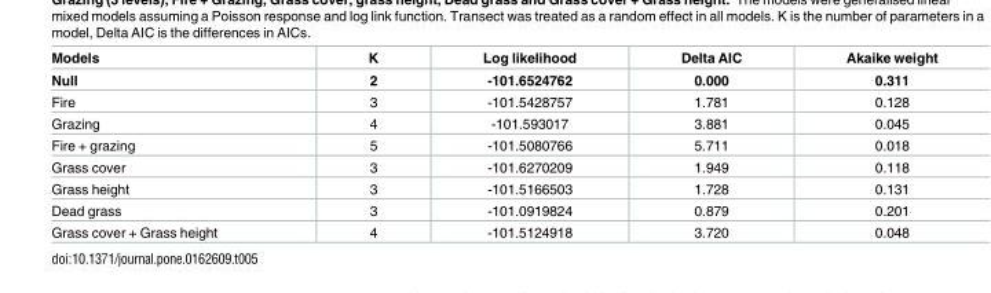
<table><thead><tr><td>Models</td><td>K</td><td>Log likelihood</td><td>Delta AIC</td><td>Akaike weight</td></tr></thead><tbody><tr><td>Null</td><td>2</td><td>-101.6524762</td><td>0.000</td><td>0.311</td></tr><tr><td>Fire</td><td>3</td><td>-101.5428757</td><td>1.781</td><td>0.128</td></tr><tr><td>Grazing</td><td>4</td><td>-101.593017</td><td>3.881</td><td>0.045</td></tr><tr><td>Fire + grazing</td><td>5</td><td>-101.5080766</td><td>5.711</td><td>0.018</td></tr><tr><td>Grass cover</td><td>3</td><td>-101.6270209</td><td>1.949</td><td>0.118</td></tr><tr><td>Grass height</td><td>3</td><td>-101.5166503</td><td>1.728</td><td>0.131</td></tr><tr><td>Dead grass</td><td>3</td><td>-101.0919824</td><td>0.879</td><td>0.201</td></tr><tr><td>Grass cover + Grass height</td><td>4</td><td>-101.5124918</td><td>3.720</td><td>0.048</td></tr></tbody></table>